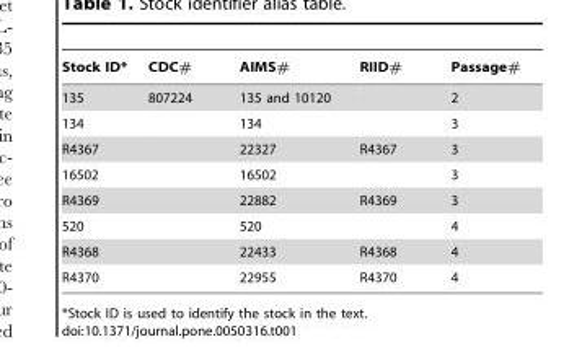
<table><thead><tr><td>Stock ID*</td><td>CDC#</td><td>AIMS#</td><td>RIID#</td><td>Passage#</td></tr></thead><tbody><tr><td>135</td><td>807224</td><td>135 and 10120</td><td></td><td>2</td></tr><tr><td>134</td><td></td><td>134</td><td></td><td>3</td></tr><tr><td>R4367</td><td></td><td>22327</td><td>R4367</td><td>3</td></tr><tr><td>16502</td><td></td><td>16502</td><td></td><td>3</td></tr><tr><td>R4369</td><td></td><td>22882</td><td>R4369</td><td>3</td></tr><tr><td>520</td><td></td><td>520</td><td></td><td>4</td></tr><tr><td>R4368</td><td></td><td>22433</td><td>R4368</td><td>4</td></tr><tr><td>R4370</td><td></td><td>22955</td><td>R4370</td><td>4</td></tr></tbody></table>